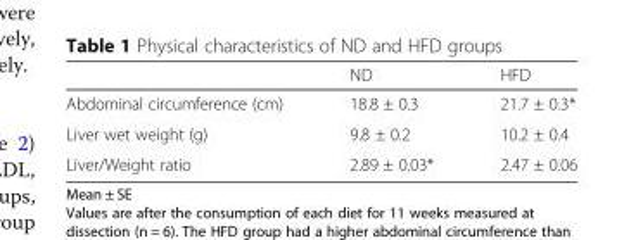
<table><thead><tr><td></td><td>ND</td><td>HFD</td></tr></thead><tbody><tr><td>Abdominal circumference (cm)</td><td>18.8 ± 0.3</td><td>21.7 ± 0.3*</td></tr><tr><td>Liver wet weight (g)</td><td>9.8 ± 0.2</td><td>10.2 ± 0.4</td></tr><tr><td>Liver/Weight ratio</td><td>2.89 ± 0.03*</td><td>2.47 ± 0.06</td></tr></tbody></table>